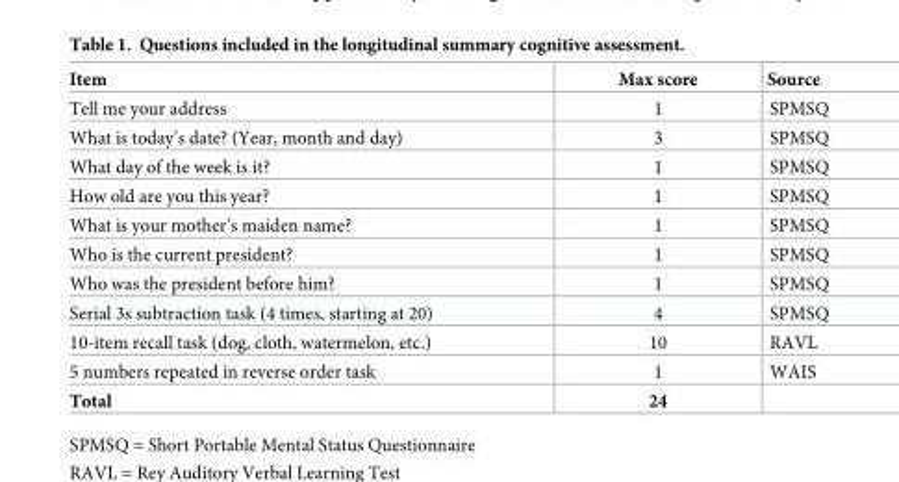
<table><thead><tr><td>Item</td><td>Max score</td><td>Source</td></tr></thead><tbody><tr><td>Tell me your address</td><td>1</td><td>SPMSQ</td></tr><tr><td>What is today’s date? (Year, month and day)</td><td>3</td><td>SPMSQ</td></tr><tr><td>What day of the week is it?</td><td>1</td><td>SPMSQ</td></tr><tr><td>How old are you this year?</td><td>1</td><td>SPMSQ</td></tr><tr><td>What is your mother’s maiden name?</td><td>1</td><td>SPMSQ</td></tr><tr><td>Who is the current president?</td><td>1</td><td>SPMSQ</td></tr><tr><td>Who was the president before him?</td><td>1</td><td>SPMSQ</td></tr><tr><td>Serial 3s subtraction task (4 times, starting at 20)</td><td>4</td><td>SPMSQ</td></tr><tr><td>10-item recall task (dog, cloth, watermelon, etc.)</td><td>10</td><td>RAVL</td></tr><tr><td>5 numbers repeated in reverse order task</td><td>1</td><td>WAIS</td></tr><tr><td>Total</td><td>24</td><td></td></tr></tbody></table>